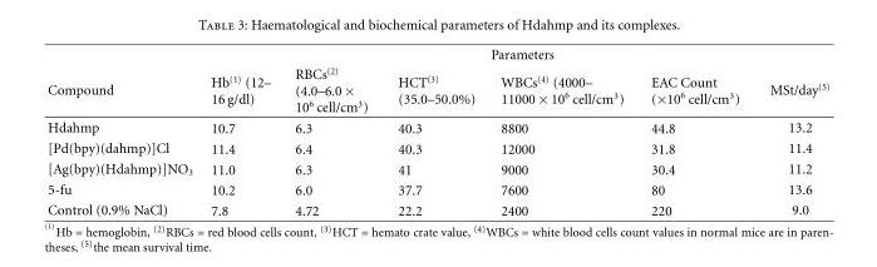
<table><thead><tr><td rowspan="2">Compound</td><td colspan="6">Parameters</td></tr><tr><td>Hb<sup>(1)</sup> (12– 16 g/dl)</td><td>RBCs<sup>(2)</sup> (4.0–6.0 × 10<sup>6</sup> cell/cm<sup>3</sup>)</td><td>HCT<sup>(3)</sup> (35.0–50.0%)</td><td>WBCs<sup>(4)</sup> (4000– 11000 × 10<sup>6</sup> cell/cm<sup>3</sup>)</td><td>EAC Count (×10<sup>6</sup> cell/cm<sup>3</sup>)</td><td>MSt/day<sup>(5)</sup></td></tr></thead><tbody><tr><td>Hdahmp</td><td>10.7</td><td>6.3</td><td>40.3</td><td>8800</td><td>44.8</td><td>13.2</td></tr><tr><td>[Pd(bpy)(dahmp)]Cl</td><td>11.4</td><td>6.4</td><td>40.3</td><td>12000</td><td>31.8</td><td>11.4</td></tr><tr><td>[Ag(bpy)(Hdahmp)]NO<sub>3</sub></td><td>11.0</td><td>6.3</td><td>41</td><td>9000</td><td>30.4</td><td>11.2</td></tr><tr><td>5-fu</td><td>10.2</td><td>6.0</td><td>37.7</td><td>7600</td><td>80</td><td>13.6</td></tr><tr><td>Control (0.9% NaCl)</td><td>7.8</td><td>4.72</td><td>22.2</td><td>2400</td><td>220</td><td>9.0</td></tr></tbody></table>